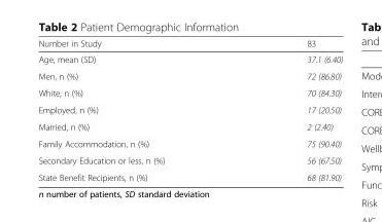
<table><thead><tr><td>Number in Study</td><td>83</td></tr></thead><tbody><tr><td>Age, mean (SD)</td><td>37.1 (6.40)</td></tr><tr><td>Men, n (%)</td><td>72 (86.80)</td></tr><tr><td>White, n (%)</td><td>70 (84.30)</td></tr><tr><td>Employed, n (%)</td><td>17 (20.50)</td></tr><tr><td>Married, n (%)</td><td>2 (2.40)</td></tr><tr><td>Family Accommodation, n (%)</td><td>75 (90.40)</td></tr><tr><td>Secondary Education or less, n (%)</td><td>56 (67.50)</td></tr><tr><td>State Benefit Recipients, n (%)</td><td>68 (81.90)</td></tr></tbody></table>